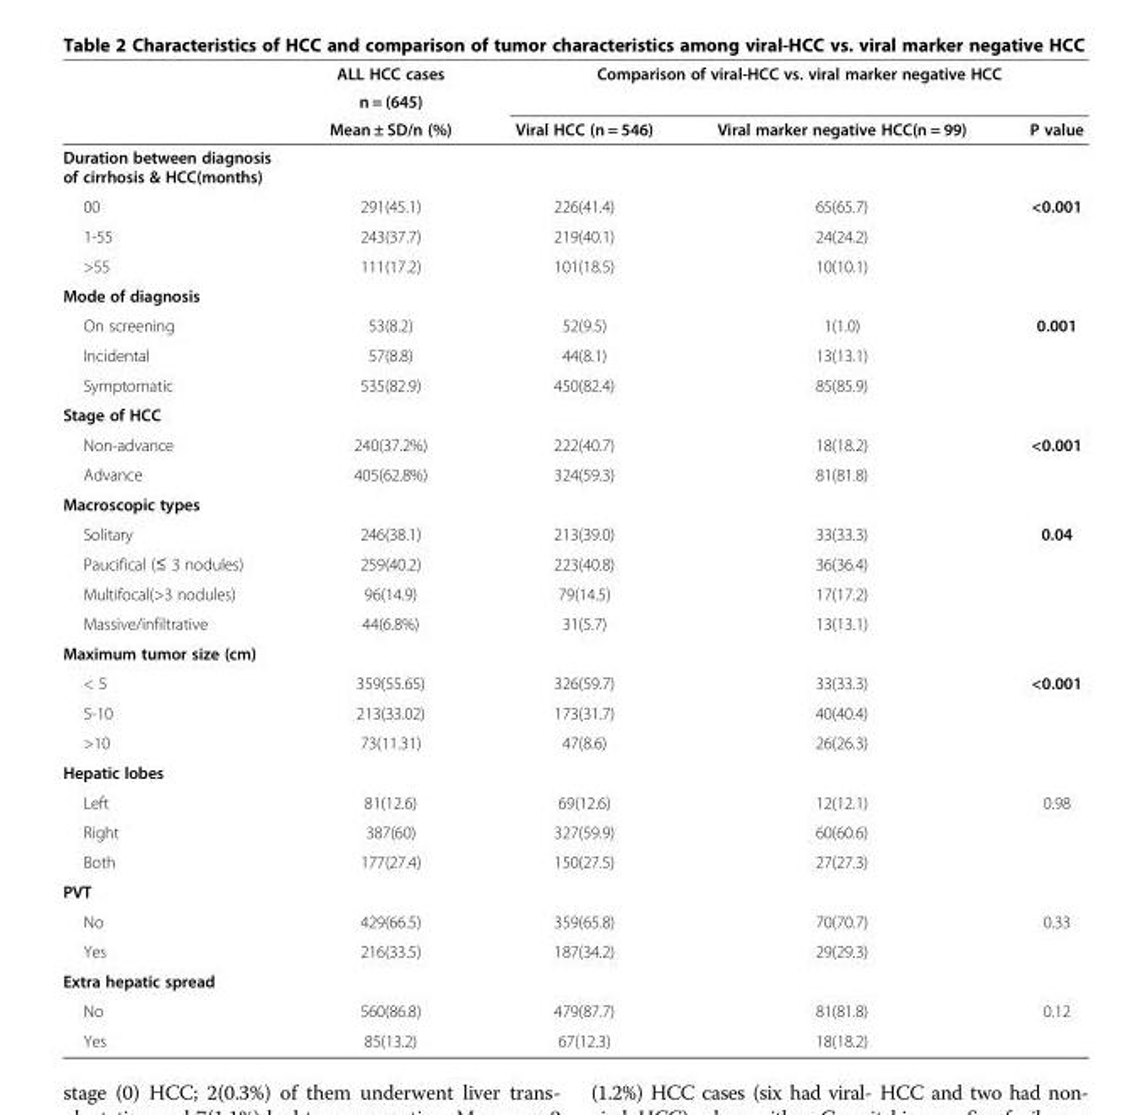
<table><thead><tr><td rowspan="3"></td><td rowspan="3">ALL HCC cases n = (645) Mean ± SD/n (%)</td><td colspan="3">Comparison of viral-HCC vs. viral marker negative HCC</td></tr><tr><td rowspan="2">Viral HCC (n = 546)</td><td rowspan="2">Viral marker negative HCC(n = 99)</td><td rowspan="2">P value</td></tr><tr></tr></thead><tbody><tr><td colspan="5">Duration between diagnosis of cirrhosis &amp; HCC(months)</td></tr><tr><td>00</td><td>291(45.1)</td><td>226(41.4)</td><td>65(65.7)</td><td>&lt;0.001</td></tr><tr><td>1-55</td><td>243(37.7)</td><td>219(40.1)</td><td>24(24.2)</td><td></td></tr><tr><td>&gt;55</td><td>111(17.2)</td><td>101(18.5)</td><td>10(10.1)</td><td></td></tr><tr><td colspan="5">Mode of diagnosis</td></tr><tr><td>On screening</td><td>53(8.2)</td><td>52(9.5)</td><td>1(1.0)</td><td>0.001</td></tr><tr><td>Incidental</td><td>57(8.8)</td><td>44(8.1)</td><td>13(13.1)</td><td></td></tr><tr><td>Symptomatic</td><td>535(82.9)</td><td>450(82.4)</td><td>85(85.9)</td><td></td></tr><tr><td colspan="5">Stage of HCC</td></tr><tr><td>Non-advance</td><td>240(37.2%)</td><td>222(40.7)</td><td>18(18.2)</td><td>&lt;0.001</td></tr><tr><td>Advance</td><td>405(62.8%)</td><td>324(59.3)</td><td>81(81.8)</td><td></td></tr><tr><td colspan="5">Macroscopic types</td></tr><tr><td>Solitary</td><td>246(38.1)</td><td>213(39.0)</td><td>33(33.3)</td><td>0.04</td></tr><tr><td>Paucifical (≤ 3 nodules)</td><td>259(40.2)</td><td>223(40.8)</td><td>36(36.4)</td><td></td></tr><tr><td>Multifocal(&gt;3 nodules)</td><td>96(14.9)</td><td>79(14.5)</td><td>17(17.2)</td><td></td></tr><tr><td>Massive/infiltrative</td><td>44(6.8%)</td><td>31(5.7)</td><td>13(13.1)</td><td></td></tr><tr><td colspan="5">Maximum tumor size (cm)</td></tr><tr><td>&lt; 5</td><td>359(55.65)</td><td>326(59.7)</td><td>33(33.3)</td><td>&lt;0.001</td></tr><tr><td>5-10</td><td>213(33.02)</td><td>173(31.7)</td><td>40(40.4)</td><td></td></tr><tr><td>&gt;10</td><td>73(11.31)</td><td>47(8.6)</td><td>26(26.3)</td><td></td></tr><tr><td colspan="5">Hepatic lobes</td></tr><tr><td>Left</td><td>81(12.6)</td><td>69(12.6)</td><td>12(12.1)</td><td>0.98</td></tr><tr><td>Right</td><td>387(60)</td><td>327(59.9)</td><td>60(60.6)</td><td></td></tr><tr><td>Both</td><td>177(27.4)</td><td>150(27.5)</td><td>27(27.3)</td><td></td></tr><tr><td colspan="5">PVT</td></tr><tr><td>No</td><td>429(66.5)</td><td>359(65.8)</td><td>70(70.7)</td><td>0.33</td></tr><tr><td>Yes</td><td>216(33.5)</td><td>187(34.2)</td><td>29(29.3)</td><td></td></tr><tr><td colspan="5">Extra hepatic spread</td></tr><tr><td>No</td><td>560(86.8)</td><td>479(87.7)</td><td>81(81.8)</td><td>0.12</td></tr><tr><td>Yes</td><td>85(13.2)</td><td>67(12.3)</td><td>18(18.2)</td><td></td></tr></tbody></table>